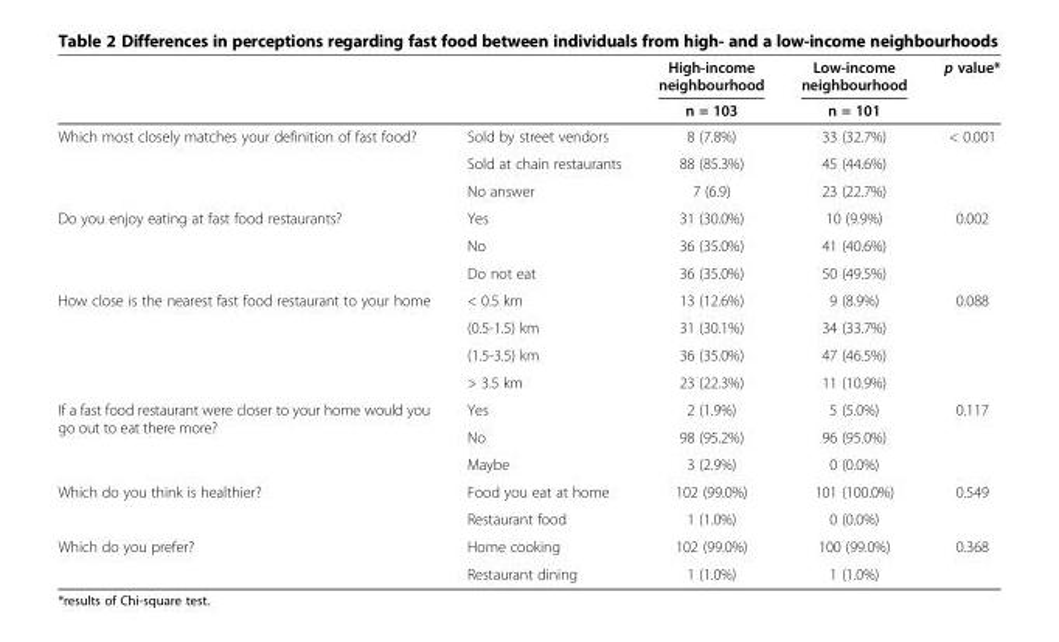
<table><thead><tr><td rowspan="2"></td><td rowspan="2"></td><td rowspan="2">High-income neighbourhood n = 103</td><td rowspan="2">Low-income neighbourhood n = 101</td><td rowspan="2">p value*</td></tr><tr></tr></thead><tbody><tr><td rowspan="3">Which most closely matches your definition of fast food?</td><td>Sold by street vendors</td><td>8 (7.8%)</td><td>33 (32.7%)</td><td rowspan="3">&lt; 0.001</td></tr><tr><td>Sold at chain restaurants</td><td>88 (85.3%)</td><td>45 (44.6%)</td></tr><tr><td>No answer</td><td>7 (6.9)</td><td>23 (22.7%)</td></tr><tr><td rowspan="3">Do you enjoy eating at fast food restaurants?</td><td>Yes</td><td>31 (30.0%)</td><td>10 (9.9%)</td><td rowspan="3">0.002</td></tr><tr><td>No</td><td>36 (35.0%)</td><td>41 (40.6%)</td></tr><tr><td>Do not eat</td><td>36 (35.0%)</td><td>50 (49.5%)</td></tr><tr><td rowspan="4">How close is the nearest fast food restaurant to your home</td><td>&lt; 0.5 km</td><td>13 (12.6%)</td><td>9 (8.9%)</td><td rowspan="4">0.088</td></tr><tr><td>(0.5-1.5) km</td><td>31 (30.1%)</td><td>34 (33.7%)</td></tr><tr><td>(1.5-3.5) km</td><td>36 (35.0%)</td><td>47 (46.5%)</td></tr><tr><td>&gt; 3.5 km</td><td>23 (22.3%)</td><td>11 (10.9%)</td></tr><tr><td rowspan="3">If a fast food restaurant were closer to your home would you go out to eat there more?</td><td>Yes</td><td>2 (1.9%)</td><td>5 (5.0%)</td><td rowspan="3">0.117</td></tr><tr><td>No</td><td>98 (95.2%)</td><td>96 (95.0%)</td></tr><tr><td>Maybe</td><td>3 (2.9%)</td><td>0 (0.0%)</td></tr><tr><td rowspan="2">Which do you think is healthier?</td><td>Food you eat at home</td><td>102 (99.0%)</td><td>101 (100.0%)</td><td rowspan="2">0.549</td></tr><tr><td>Restaurant food</td><td>1 (1.0%)</td><td>0 (0.0%)</td></tr><tr><td rowspan="2">Which do you prefer?</td><td>Home cooking</td><td>102 (99.0%)</td><td>100 (99.0%)</td><td>0.368</td></tr><tr><td>Restaurant dining</td><td>1 (1.0%)</td><td>1 (1.0%)</td><td></td></tr></tbody></table>